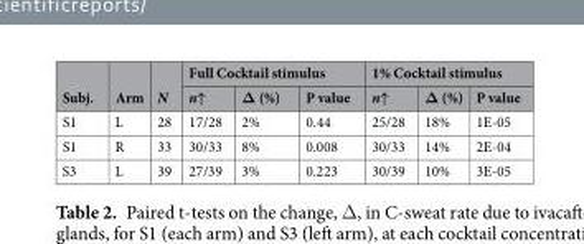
<table><thead><tr><td rowspan="2">Subj.</td><td rowspan="2">Arm</td><td rowspan="2">N</td><td colspan="3">Full Cocktail stimulus</td><td colspan="3">1% Cocktail stimulus</td></tr><tr><td>n↑</td><td>Δ (%)</td><td>P value</td><td>n↑</td><td>Δ (%)</td><td>P value</td></tr></thead><tbody><tr><td>S1</td><td>L</td><td>28</td><td>17/28</td><td>2%</td><td>0.44</td><td>25/28</td><td>18%</td><td>1E-05</td></tr><tr><td>S1</td><td>R</td><td>33</td><td>30/33</td><td>8%</td><td>0.008</td><td>30/33</td><td>14%</td><td>2E-04</td></tr><tr><td>S3</td><td>L</td><td>39</td><td>27/39</td><td>3%</td><td>0.223</td><td>30/39</td><td>10%</td><td>3E-05</td></tr></tbody></table>